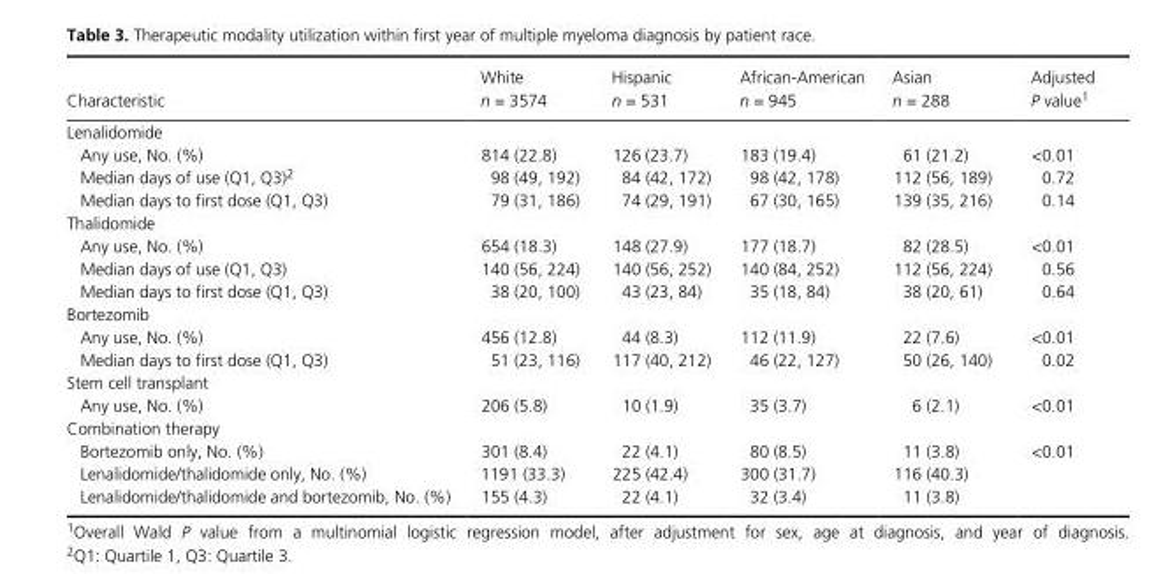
<table><thead><tr><td>Characteristic</td><td>White n = 3574</td><td>Hispanic n = 531</td><td>African- American n = 945</td><td>Asian n = 288</td><td>Adjusted P value1</td></tr></thead><tbody><tr><td colspan="6">Lenalidomide</td></tr><tr><td>Any use, No. (%)</td><td>814 (22.8)</td><td>126 (23.7)</td><td>183 (19.4)</td><td>61 (21.2)</td><td>&lt;0.01</td></tr><tr><td>Median days of use (Q1, Q3)2</td><td>98 (49, 192)</td><td>84 (42, 172)</td><td>98 (42, 178)</td><td>112 (56, 189)</td><td>0.72</td></tr><tr><td>Median days to first dose (Q1, Q3)</td><td>79 (31, 186)</td><td>74 (29, 191)</td><td>67 (30, 165)</td><td>139 (35, 216)</td><td>0.14</td></tr><tr><td colspan="6">Thalidomide</td></tr><tr><td>Any use, No. (%)</td><td>654 (18.3)</td><td>148 (27.9)</td><td>177 (18.7)</td><td>82 (28.5)</td><td>&lt;0.01</td></tr><tr><td>Median days of use (Q1, Q3)</td><td>140 (56, 224)</td><td>140 (56, 252)</td><td>140 (84, 252)</td><td>112 (56, 224)</td><td>0.56</td></tr><tr><td>Median days to first dose (Q1, Q3)</td><td>38 (20, 100)</td><td>43 (23, 84)</td><td>35 (18, 84)</td><td>38 (20, 61)</td><td>0.64</td></tr><tr><td colspan="6">Bortezomib</td></tr><tr><td>Any use, No. (%)</td><td>456 (12.8)</td><td>44 (8.3)</td><td>112 (11.9)</td><td>22 (7.6)</td><td>&lt;0.01</td></tr><tr><td>Median days to first dose (Q1, Q3)</td><td>51 (23, 116)</td><td>117 (40, 212)</td><td>46 (22, 127)</td><td>50 (26, 140)</td><td>0.02</td></tr><tr><td colspan="6">Stem cell transplant</td></tr><tr><td>Any use, No. (%)</td><td>206 (5.8)</td><td>10 (1.9)</td><td>35 (3.7)</td><td>6 (2.1)</td><td>&lt;0.01</td></tr><tr><td colspan="6">Combination therapy</td></tr><tr><td>Bortezomib only, No. (%)</td><td>301 (8.4)</td><td>22 (4.1)</td><td>80 (8.5)</td><td>11 (3.8)</td><td>&lt;0.01</td></tr><tr><td>Lenalidomide/thalidomide only, No. (%)</td><td>1191 (33.3)</td><td>225 (42.4)</td><td>300 (31.7)</td><td>116 (40.3)</td><td></td></tr><tr><td>Lenalidomide/thalidomide and bortezomib, No. (%)</td><td>155 (4.3)</td><td>22 (4.1)</td><td>32 (3.4)</td><td>11 (3.8)</td><td></td></tr></tbody></table>